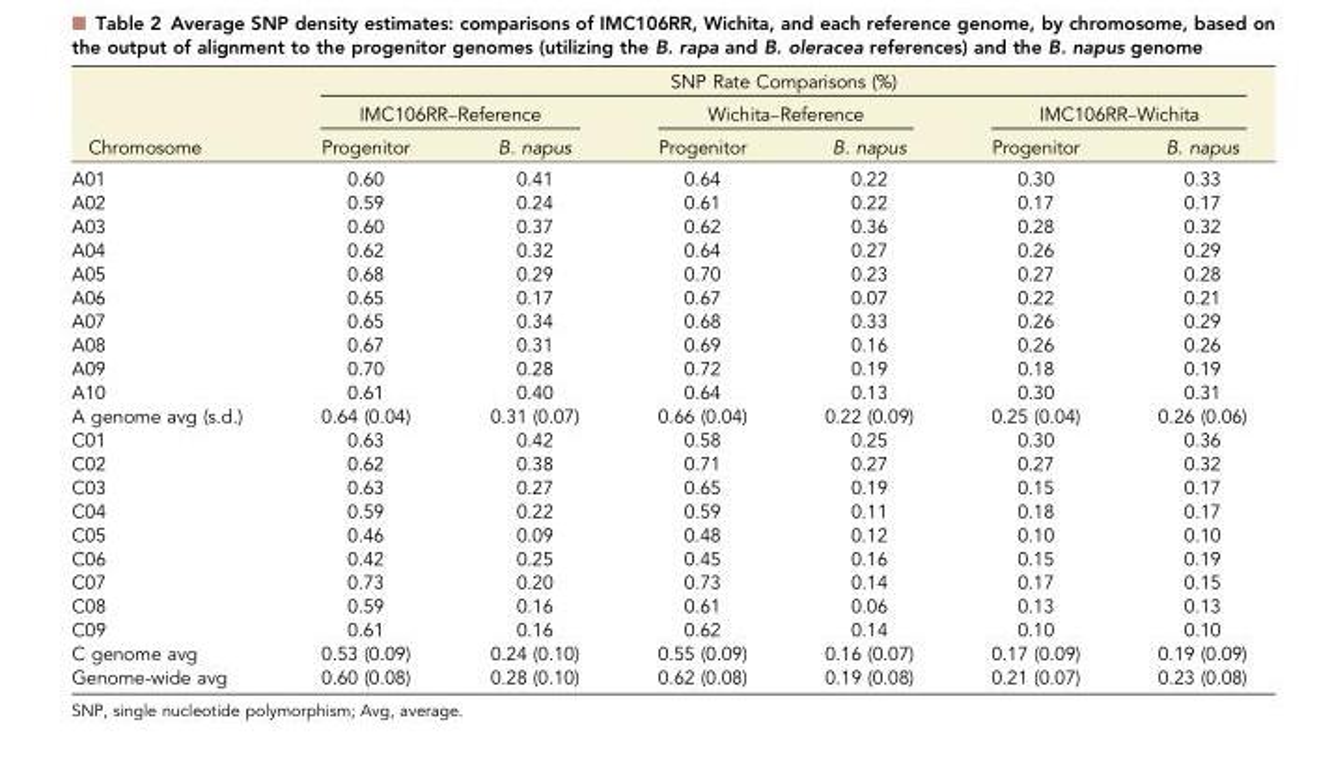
<table><thead><tr><td rowspan="3">Chromosome</td><td colspan="6">SNP Rate Comparisons (%)</td></tr><tr><td colspan="2">IMC106RR–Reference</td><td colspan="2">Wichita–Reference</td><td colspan="2">IMC106RR–Wichita</td></tr><tr><td>Progenitor</td><td>B. napus</td><td>Progenitor</td><td>B. napus</td><td>Progenitor</td><td>B. napus</td></tr></thead><tbody><tr><td>A01</td><td>0.60</td><td>0.41</td><td>0.64</td><td>0.22</td><td>0.30</td><td>0.33</td></tr><tr><td>A02</td><td>0.59</td><td>0.24</td><td>0.61</td><td>0.22</td><td>0.17</td><td>0.17</td></tr><tr><td>A03</td><td>0.60</td><td>0.37</td><td>0.62</td><td>0.36</td><td>0.28</td><td>0.32</td></tr><tr><td>A04</td><td>0.62</td><td>0.32</td><td>0.64</td><td>0.27</td><td>0.26</td><td>0.29</td></tr><tr><td>A05</td><td>0.68</td><td>0.29</td><td>0.70</td><td>0.23</td><td>0.27</td><td>0.28</td></tr><tr><td>A06</td><td>0.65</td><td>0.17</td><td>0.67</td><td>0.07</td><td>0.22</td><td>0.21</td></tr><tr><td>A07</td><td>0.65</td><td>0.34</td><td>0.68</td><td>0.33</td><td>0.26</td><td>0.29</td></tr><tr><td>A08</td><td>0.67</td><td>0.31</td><td>0.69</td><td>0.16</td><td>0.26</td><td>0.26</td></tr><tr><td>A09</td><td>0.70</td><td>0.28</td><td>0.72</td><td>0.19</td><td>0.18</td><td>0.19</td></tr><tr><td>A10</td><td>0.61</td><td>0.40</td><td>0.64</td><td>0.13</td><td>0.30</td><td>0.31</td></tr><tr><td>A genome avg (s.d.)</td><td>0.64 (0.04)</td><td>0.31 (0.07)</td><td>0.66 (0.04)</td><td>0.22 (0.09)</td><td>0.25 (0.04)</td><td>0.26 (0.06)</td></tr><tr><td>C01</td><td>0.63</td><td>0.42</td><td>0.58</td><td>0.25</td><td>0.30</td><td>0.36</td></tr><tr><td>C02</td><td>0.62</td><td>0.38</td><td>0.71</td><td>0.27</td><td>0.27</td><td>0.32</td></tr><tr><td>C03</td><td>0.63</td><td>0.27</td><td>0.65</td><td>0.19</td><td>0.15</td><td>0.17</td></tr><tr><td>C04</td><td>0.59</td><td>0.22</td><td>0.59</td><td>0.11</td><td>0.18</td><td>0.17</td></tr><tr><td>C05</td><td>0.46</td><td>0.09</td><td>0.48</td><td>0.12</td><td>0.10</td><td>0.10</td></tr><tr><td>C06</td><td>0.42</td><td>0.25</td><td>0.45</td><td>0.16</td><td>0.15</td><td>0.19</td></tr><tr><td>C07</td><td>0.73</td><td>0.20</td><td>0.73</td><td>0.14</td><td>0.17</td><td>0.15</td></tr><tr><td>C08</td><td>0.59</td><td>0.16</td><td>0.61</td><td>0.06</td><td>0.13</td><td>0.13</td></tr><tr><td>C09</td><td>0.61</td><td>0.16</td><td>0.62</td><td>0.14</td><td>0.10</td><td>0.10</td></tr><tr><td>C genome avg</td><td>0.53 (0.09)</td><td>0.24 (0.10)</td><td>0.55 (0.09)</td><td>0.16 (0.07)</td><td>0.17 (0.09)</td><td>0.19 (0.09)</td></tr><tr><td>Genome-wide avg</td><td>0.60 (0.08)</td><td>0.28 (0.10)</td><td>0.62 (0.08)</td><td>0.19 (0.08)</td><td>0.21 (0.07)</td><td>0.23 (0.08)</td></tr></tbody></table>